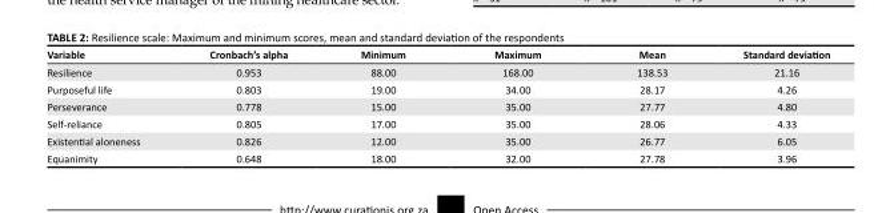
<table><thead><tr><td>Variable</td><td>Cronbach’s alpha</td><td>Minimum</td><td>Maximum</td><td>Mean</td><td>Standard deviation</td></tr></thead><tbody><tr><td>Resilience</td><td>0.953</td><td>88.00</td><td>168.00</td><td>138.53</td><td>21.16</td></tr><tr><td>Purposeful life</td><td>0.803</td><td>19.00</td><td>34.00</td><td>28.17</td><td>4.26</td></tr><tr><td>Perseverance</td><td>0.778</td><td>15.00</td><td>35.00</td><td>27.77</td><td>4.80</td></tr><tr><td>Self-reliance</td><td>0.805</td><td>17.00</td><td>35.00</td><td>28.06</td><td>4.33</td></tr><tr><td>Existential aloneness</td><td>0.826</td><td>12.00</td><td>35.00</td><td>26.77</td><td>6.05</td></tr><tr><td>Equanimity</td><td>0.648</td><td>18.00</td><td>32.00</td><td>27.78</td><td>3.96</td></tr></tbody></table>